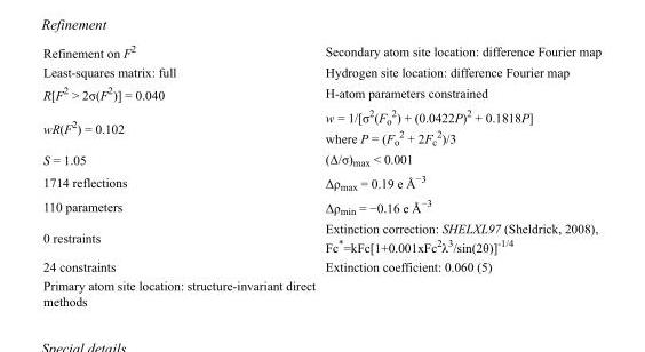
<table><tbody><tr><td>Refinement on F<sup>2</sup></td><td>Secondary atom site location: difference Fourier map</td></tr><tr><td>Least-squares matrix: full</td><td>Hydrogen site location: difference Fourier map</td></tr><tr><td>R[F<sup>2</sup> &gt; 2σ(F<sup>2</sup>)] = 0.040</td><td>H-atom parameters constrained</td></tr><tr><td>wR(F<sup>2</sup>) = 0.102</td><td>w = 1/[σ<sup>2</sup>(F<sub>o</sub> <sup>2</sup>) + (0.0422P)<sup>2</sup> + 0.1818P] where P = (F<sub>o</sub> <sup>2</sup> + 2F<sub>c</sub> <sup>2</sup>)/3</td></tr><tr><td>S = 1.05</td><td>(Δ/σ)<sub>max</sub> &lt; 0.001</td></tr><tr><td>1714 reflections</td><td>Δρ<sub>max</sub> = 0.19 e Å<sup>−3</sup></td></tr><tr><td>110 parameters</td><td>Δρ<sub>min</sub> = −0.16 e Å<sup>−3</sup></td></tr><tr><td>0 restraints</td><td>Extinction correction: SHELXL97 (Sheldrick, 2008), Fc*=kFc[1+0.001xFc<sup>2</sup>λ<sup>3</sup>/sin(2θ)]<sup>-1/4</sup></td></tr><tr><td>24 constraints</td><td>Extinction coefficient: 0.060 (5)</td></tr><tr><td>Primary atom site location: structure-invariant direct methods</td><td></td></tr></tbody></table>